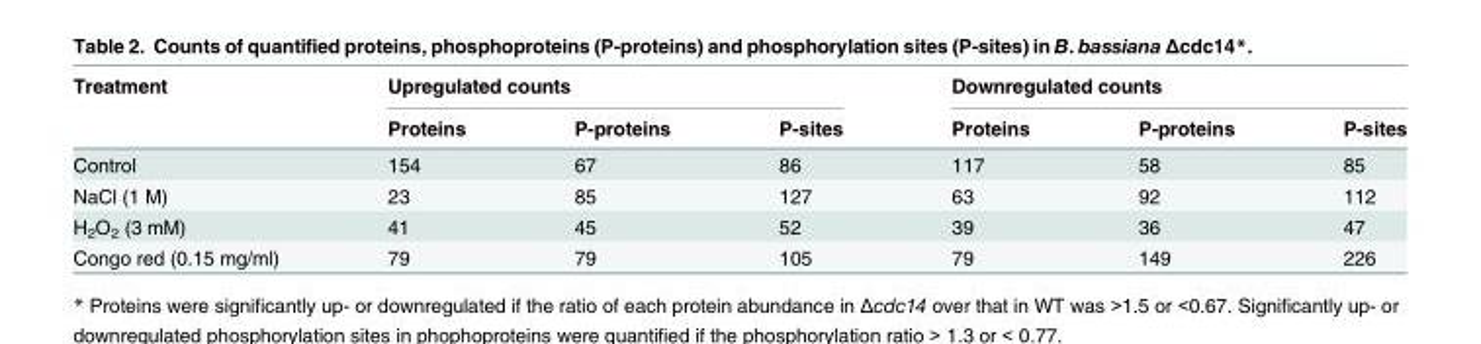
<table><thead><tr><td rowspan="2">Treatment</td><td colspan="3">Upregulated counts</td><td colspan="3">Downregulated counts</td></tr><tr><td>Proteins</td><td>P-proteins</td><td>P-sites</td><td>Proteins</td><td>P-proteins</td><td>P-sites</td></tr></thead><tbody><tr><td>Control</td><td>154</td><td>67</td><td>86</td><td>117</td><td>58</td><td>85</td></tr><tr><td>NaCl (1 M)</td><td>23</td><td>85</td><td>127</td><td>63</td><td>92</td><td>112</td></tr><tr><td>H<sub>2</sub>O<sub>2</sub> (3 mM)</td><td>41</td><td>45</td><td>52</td><td>39</td><td>36</td><td>47</td></tr><tr><td>Congo red (0.15 mg/ml)</td><td>79</td><td>79</td><td>105</td><td>79</td><td>149</td><td>226</td></tr></tbody></table>